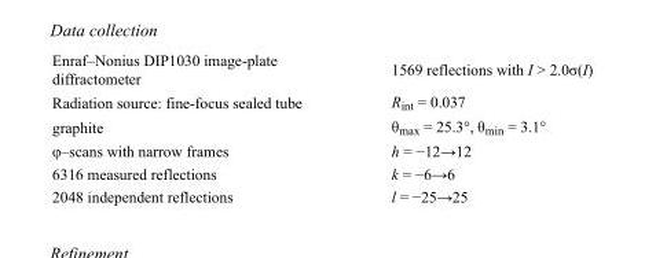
<table><tbody><tr><td>Enraf–Nonius DIP1030 image-plate diffractometer</td><td>1569 reflections with I &gt; 2.0σ(I)</td></tr><tr><td>Radiation source: fine-focus sealed tube</td><td>R<sub>int</sub> = 0.037</td></tr><tr><td>graphite</td><td>θ<sub>max</sub> = 25.3°, θ<sub>min</sub> = 3.1°</td></tr><tr><td>φ–scans with narrow frames</td><td>h = −12→12</td></tr><tr><td>6316 measured reflections</td><td>k = −6→6</td></tr><tr><td>2048 independent reflections</td><td>l = −25→25</td></tr></tbody></table>